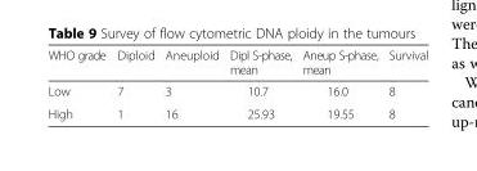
<table><thead><tr><td>WHO grade</td><td>Diploid</td><td>Aneuploid</td><td>Dipl S-phase, mean</td><td>Aneup S-phase, mean</td><td>Survival</td></tr></thead><tbody><tr><td>Low</td><td>7</td><td>3</td><td>10.7</td><td>16.0</td><td>8</td></tr><tr><td>High</td><td>1</td><td>16</td><td>25.93</td><td>19.55</td><td>8</td></tr></tbody></table>